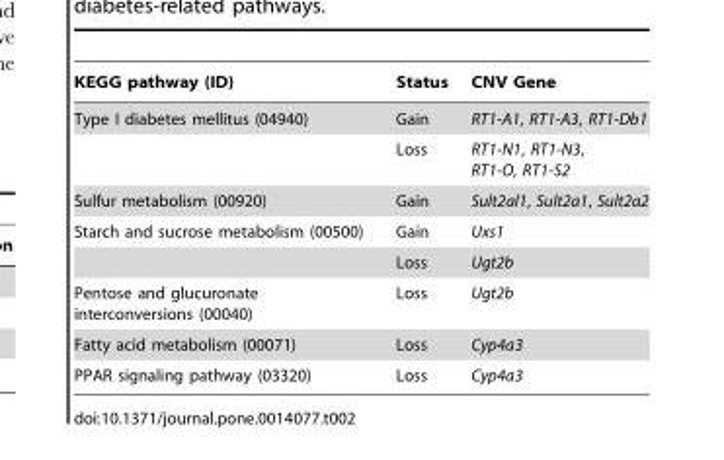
<table><thead><tr><td>KEGG pathway (ID)</td><td>Status</td><td>CNV Gene</td></tr></thead><tbody><tr><td rowspan="2">Type I diabetes mellitus (04940)</td><td>Gain</td><td>RT1-A1, RT1-A3, RT1-Db1</td></tr><tr><td>Loss</td><td>RT1-N1, RT1-N3, RT1-O, RT1-S2</td></tr><tr><td>Sulfur metabolism (00920)</td><td>Gain</td><td>Sult2al1, Sult2a1, Sult2a2</td></tr><tr><td rowspan="2">Starch and sucrose metabolism (00500)</td><td>Gain</td><td>Uxs1</td></tr><tr><td>Loss</td><td>Ugt2b</td></tr><tr><td>Pentose and glucuronate interconversions (00040)</td><td>Loss</td><td>Ugt2b</td></tr><tr><td>Fatty acid metabolism (00071)</td><td>Loss</td><td>Cyp4a3</td></tr><tr><td>PPAR signaling pathway (03320)</td><td>Loss</td><td>Cyp4a3</td></tr></tbody></table>